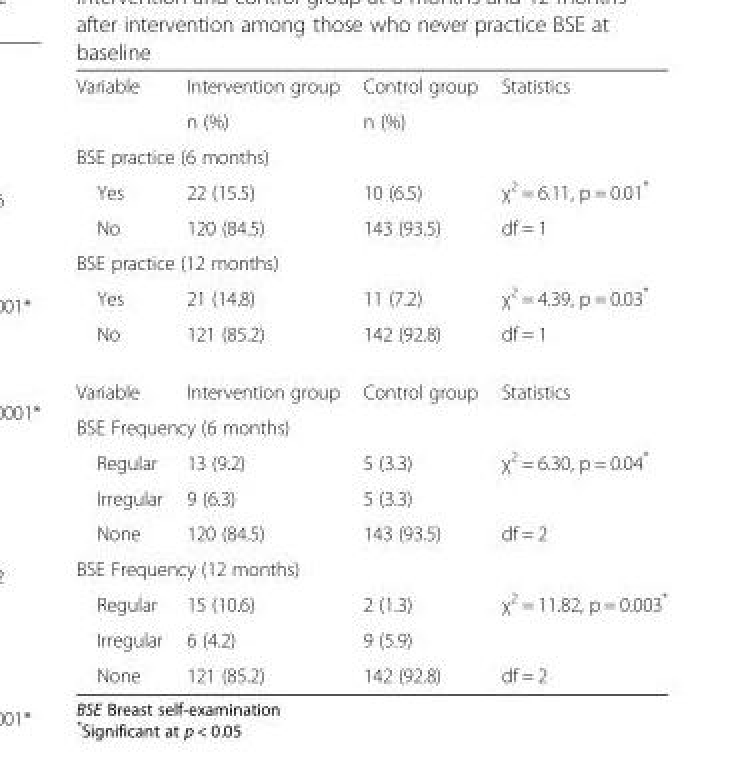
<table><tbody><tr><td rowspan="2">Variable</td><td>Intervention group</td><td>Control group</td><td rowspan="2">Statistics</td></tr><tr><td>n (%)</td><td>n (%)</td></tr><tr><td colspan="4">BSE practice (6 months)</td></tr><tr><td>Yes</td><td>22 (15.5)</td><td>10 (6.5)</td><td>χ<sup>2</sup> = 6.11, p = 0.01*</td></tr><tr><td>No</td><td>120 (84.5)</td><td>143 (93.5)</td><td>df = 1</td></tr><tr><td colspan="4">BSE practice (12 months)</td></tr><tr><td>Yes</td><td>21 (14.8)</td><td>11 (7.2)</td><td>χ<sup>2</sup> = 4.39, p = 0.03*</td></tr><tr><td>No</td><td>121 (85.2)</td><td>142 (92.8)</td><td>df = 1</td></tr><tr><td>Variable</td><td>Intervention group</td><td>Control group</td><td>Statistics</td></tr><tr><td colspan="4">BSE Frequency (6 months)</td></tr><tr><td>Regular</td><td>13 (9.2)</td><td>5 (3.3)</td><td rowspan="2">χ<sup>2</sup> = 6.30, p = 0.04*</td></tr><tr><td>Irregular</td><td>9 (6.3)</td><td>5 (3.3)</td></tr><tr><td>None</td><td>120 (84.5)</td><td>143 (93.5)</td><td>df = 2</td></tr><tr><td colspan="4">BSE Frequency (12 months)</td></tr><tr><td>Regular</td><td>15 (10.6)</td><td>2 (1.3)</td><td rowspan="2">χ<sup>2</sup> = 11.82, p = 0.003*</td></tr><tr><td>Irregular</td><td>6 (4.2)</td><td>9 (5.9)</td></tr><tr><td>None</td><td>121 (85.2)</td><td>142 (92.8)</td><td>df = 2</td></tr></tbody></table>